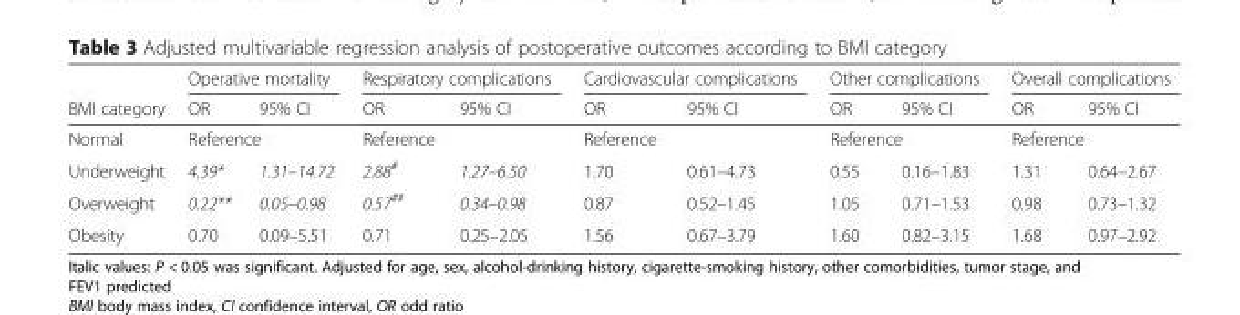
<table><thead><tr><td rowspan="2">BMI category</td><td colspan="2">Operative mortality</td><td colspan="2">Respiratory complications</td><td colspan="2">Cardiovascular complications</td><td colspan="2">Other complications</td><td colspan="2">Overall complications</td></tr><tr><td>OR</td><td>95% CI</td><td>OR</td><td>95% CI</td><td>OR</td><td>95% CI</td><td>OR</td><td>95% CI</td><td>OR</td><td>95% CI</td></tr></thead><tbody><tr><td>Normal</td><td colspan="2">Reference</td><td colspan="2">Reference</td><td colspan="2">Reference</td><td colspan="2">Reference</td><td colspan="2">Reference</td></tr><tr><td>Underweight</td><td>4.39*</td><td>1.31–14.72</td><td>2.88<sup>#</sup></td><td>1.27–6.50</td><td>1.70</td><td>0.61–4.73</td><td>0.55</td><td>0.16–1.83</td><td>1.31</td><td>0.64–2.67</td></tr><tr><td>Overweight</td><td>0.22**</td><td>0.05–0.98</td><td>0.57<sup>##</sup></td><td>0.34–0.98</td><td>0.87</td><td>0.52–1.45</td><td>1.05</td><td>0.71–1.53</td><td>0.98</td><td>0.73–1.32</td></tr><tr><td>Obesity</td><td>0.70</td><td>0.09–5.51</td><td>0.71</td><td>0.25–2.05</td><td>1.56</td><td>0.67–3.79</td><td>1.60</td><td>0.82–3.15</td><td>1.68</td><td>0.97–2.92</td></tr></tbody></table>